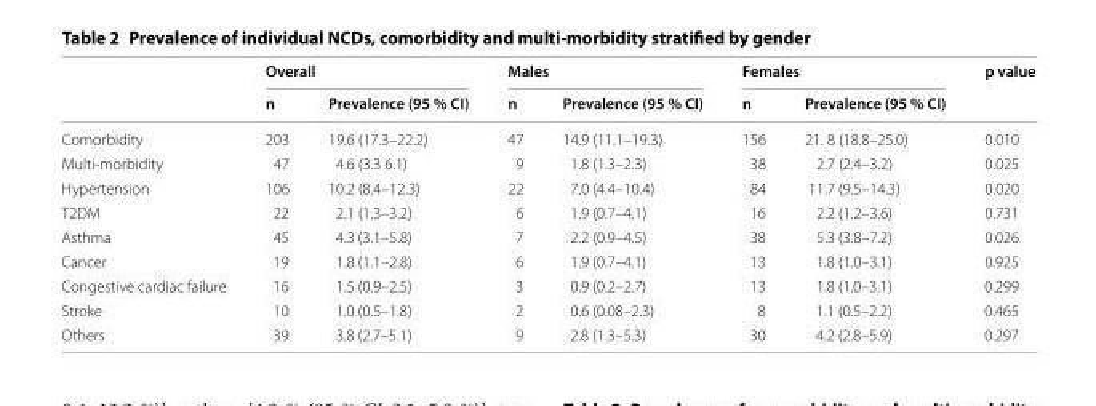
<table><thead><tr><td rowspan="2"></td><td colspan="2">Overall</td><td colspan="2">Males</td><td colspan="2">Females</td><td rowspan="2">p value</td></tr><tr><td>n</td><td>Prevalence (95 % CI)</td><td>n</td><td>Prevalence (95 % CI)</td><td>n</td><td>Prevalence (95 % CI)</td></tr></thead><tbody><tr><td>Comorbidity</td><td>203</td><td>19.6 (17.3–22.2)</td><td>47</td><td>14.9 (11.1–19.3)</td><td>156</td><td>21. 8 (18.8–25.0)</td><td>0.010</td></tr><tr><td>Multi-morbidity</td><td>47</td><td>4.6 (3.3 6.1)</td><td>9</td><td>1.8 (1.3–2.3)</td><td>38</td><td>2.7 (2.4–3.2)</td><td>0.025</td></tr><tr><td>Hypertension</td><td>106</td><td>10.2 (8.4–12.3)</td><td>22</td><td>7.0 (4.4–10.4)</td><td>84</td><td>11.7 (9.5–14.3)</td><td>0.020</td></tr><tr><td>T2DM</td><td>22</td><td>2.1 (1.3–3.2)</td><td>6</td><td>1.9 (0.7–4.1)</td><td>16</td><td>2.2 (1.2–3.6)</td><td>0.731</td></tr><tr><td>Asthma</td><td>45</td><td>4.3 (3.1–5.8)</td><td>7</td><td>2.2 (0.9–4.5)</td><td>38</td><td>5.3 (3.8–7.2)</td><td>0.026</td></tr><tr><td>Cancer</td><td>19</td><td>1.8 (1.1–2.8)</td><td>6</td><td>1.9 (0.7–4.1)</td><td>13</td><td>1.8 (1.0–3.1)</td><td>0.925</td></tr><tr><td>Congestive cardiac failure</td><td>16</td><td>1.5 (0.9–2.5)</td><td>3</td><td>0.9 (0.2–2.7)</td><td>13</td><td>1.8 (1.0–3.1)</td><td>0.299</td></tr><tr><td>Stroke</td><td>10</td><td>1.0 (0.5–1.8)</td><td>2</td><td>0.6 (0.08–2.3)</td><td>8</td><td>1.1 (0.5–2.2)</td><td>0.465</td></tr><tr><td>Others</td><td>39</td><td>3.8 (2.7–5.1)</td><td>9</td><td>2.8 (1.3–5.3)</td><td>30</td><td>4.2 (2.8–5.9)</td><td>0.297</td></tr></tbody></table>